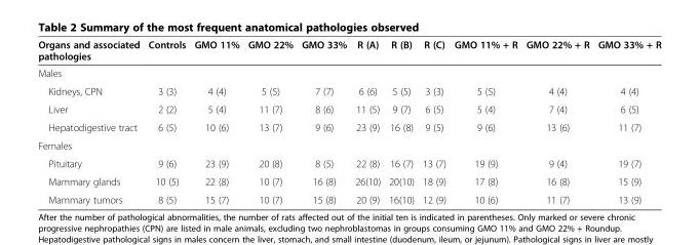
<table><thead><tr><td>Organs and associated pathologies</td><td>Controls</td><td>GMO 11%</td><td>GMO 22%</td><td>GMO 33%</td><td>R (A)</td><td>R (B)</td><td>R (C)</td><td>GMO 11% + R</td><td>GMO 22% + R</td><td>GMO 33% + R</td></tr></thead><tbody><tr><td colspan="11">Males</td></tr><tr><td>Kidneys, CPN</td><td>3 (3)</td><td>4 (4)</td><td>5 (5)</td><td>7 (7)</td><td>6 (6)</td><td>5 (5)</td><td>3 (3)</td><td>5 (5)</td><td>4 (4)</td><td>4 (4)</td></tr><tr><td>Liver</td><td>2 (2)</td><td>5 (4)</td><td>11 (7)</td><td>8 (6)</td><td>11 (5)</td><td>9 (7)</td><td>6 (5)</td><td>5 (4)</td><td>7 (4)</td><td>6 (5)</td></tr><tr><td>Hepatodigestive tract</td><td>6 (5)</td><td>10 (6)</td><td>13 (7)</td><td>9 (6)</td><td>23 (9)</td><td>16 (8)</td><td>9 (5)</td><td>9 (6)</td><td>13 (6)</td><td>11 (7)</td></tr><tr><td colspan="11">Females</td></tr><tr><td>Pituitary</td><td>9 (6)</td><td>23 (9)</td><td>20 (8)</td><td>8 (5)</td><td>22 (8)</td><td>16 (7)</td><td>13 (7)</td><td>19 (9)</td><td>9 (4)</td><td>19 (7)</td></tr><tr><td>Mammary glands</td><td>10 (5)</td><td>22 (8)</td><td>10 (7)</td><td>16 (8)</td><td>26(10)</td><td>20(10)</td><td>18 (9)</td><td>17 (8)</td><td>16 (8)</td><td>15 (9)</td></tr><tr><td>Mammary tumors</td><td>8 (5)</td><td>15 (7)</td><td>10 (7)</td><td>15 (8)</td><td>20 (9)</td><td>16(10)</td><td>12 (9)</td><td>10 (6)</td><td>11 (7)</td><td>13 (9)</td></tr></tbody></table>